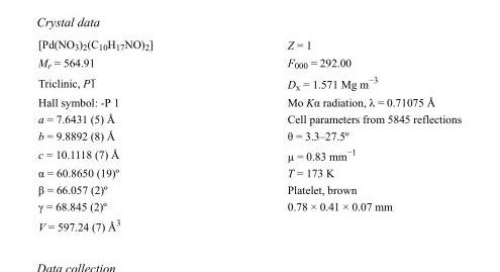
<table><tbody><tr><td>[Pd(NO<sub>3</sub>)<sub>2</sub>(C<sub>10</sub>H<sub>17</sub>NO)<sub>2</sub>]</td><td>Z = 1</td></tr><tr><td>M<sub>r</sub> = 564.91</td><td>F000 = 292.00</td></tr><tr><td>Triclinic, P1</td><td>D<sub>x</sub> = 1.571 Mg m<sup>−3</sup></td></tr><tr><td>Hall symbol: -P 1</td><td>Mo Kα radiation, λ = 0.71075 Å</td></tr><tr><td>a = 7.6431 (5) Å</td><td>Cell parameters from 5845 reflections</td></tr><tr><td>b = 9.8892 (8) Å</td><td>θ = 3.3–27.5º</td></tr><tr><td>c = 10.1118 (7) Å</td><td>µ = 0.83 mm<sup>−1</sup></td></tr><tr><td>α = 60.8650 (19)º</td><td>T = 173 K</td></tr><tr><td>β = 66.057 (2)º</td><td>Platelet, brown</td></tr><tr><td>γ = 68.845 (2)º</td><td>0.78 × 0.41 × 0.07 mm</td></tr><tr><td>V = 597.24 (7) Å<sup>3</sup></td><td></td></tr></tbody></table>